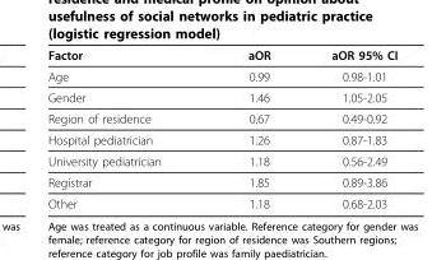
<table><thead><tr><td>Factor</td><td>aOR</td><td>aOR 95% CI</td></tr></thead><tbody><tr><td>Age</td><td>0.99</td><td>0.98-1.01</td></tr><tr><td>Gender</td><td>1.46</td><td>1.05-2.05</td></tr><tr><td>Region of residence</td><td>0.67</td><td>0.49-0.92</td></tr><tr><td>Hospital pediatrician</td><td>1.26</td><td>0.87-1.83</td></tr><tr><td>University pediatrician</td><td>1.18</td><td>0.56-2.49</td></tr><tr><td>Registrar</td><td>1.85</td><td>0.89-3.86</td></tr><tr><td>Other</td><td>1.18</td><td>0.68-2.03</td></tr></tbody></table>